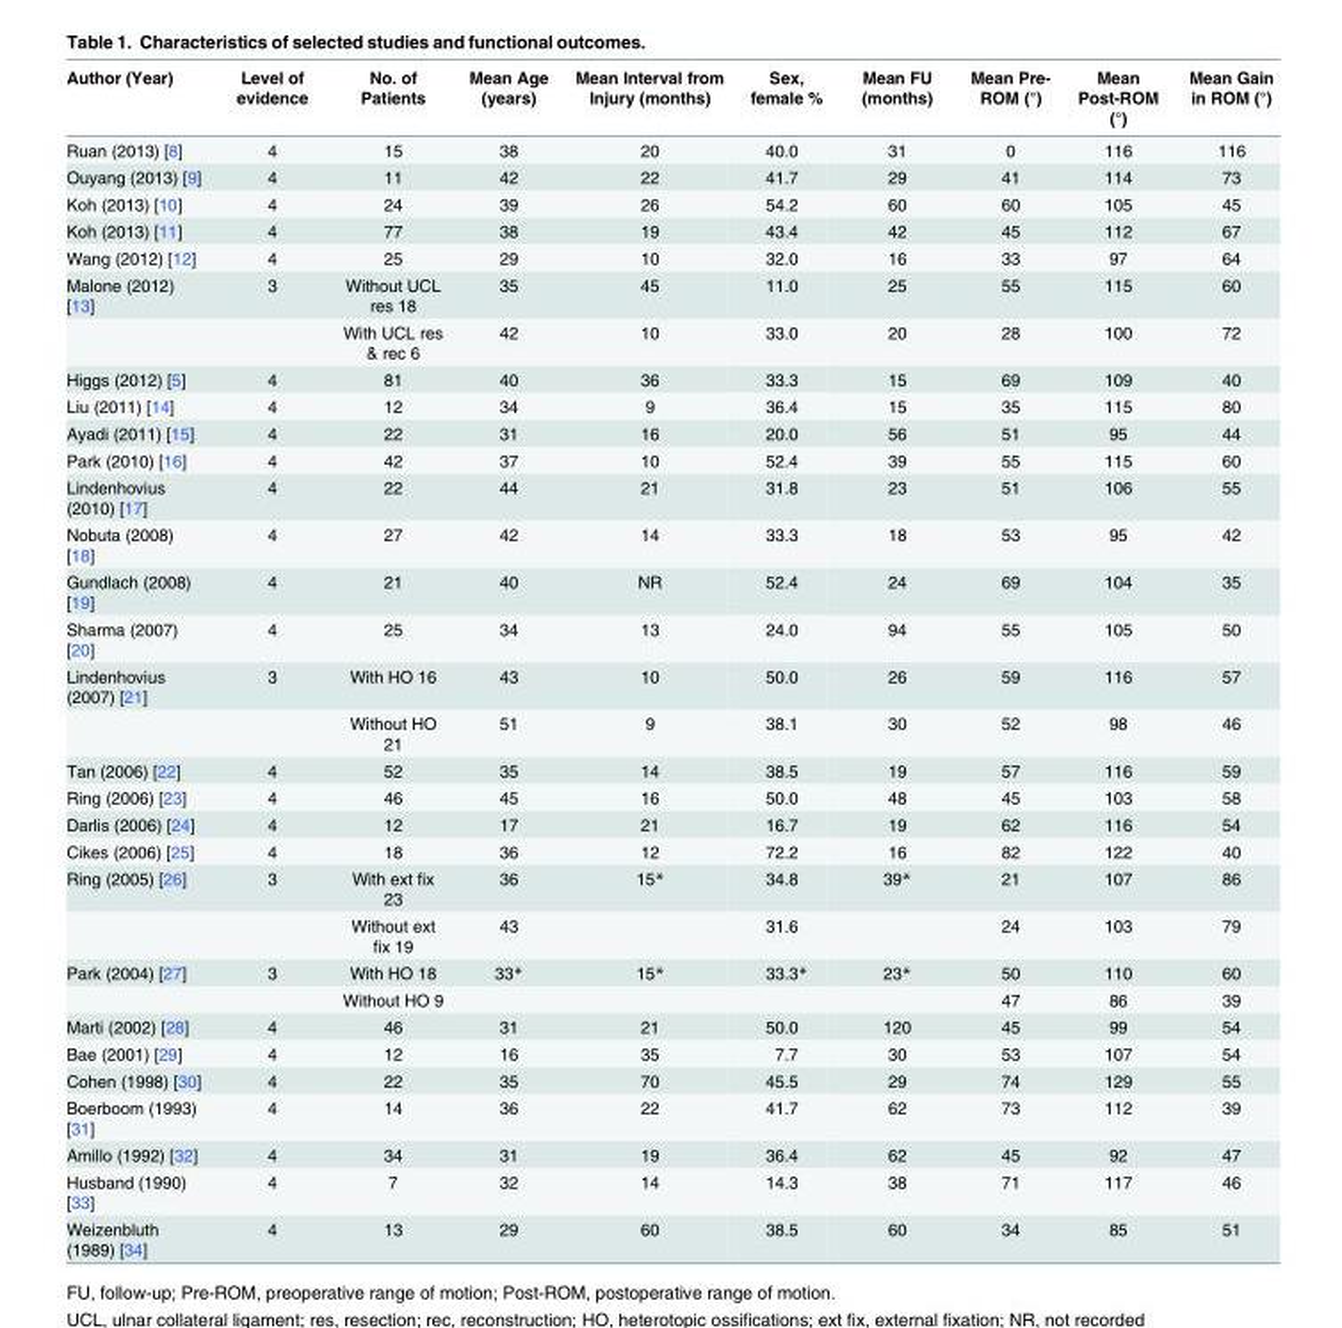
<table><thead><tr><td>Author (Year)</td><td>Level of evidence</td><td>No. of Patients</td><td>Mean Age (years)</td><td>Mean Interval from Injury (months)</td><td>Sex, female %</td><td>Mean FU (months)</td><td>Mean Pre- ROM (°)</td><td>Mean Post-ROM (°)</td><td>Mean Gain in ROM (°)</td></tr></thead><tbody><tr><td>Ruan (2013) [8]</td><td>4</td><td>15</td><td>38</td><td>20</td><td>40.0</td><td>31</td><td>0</td><td>116</td><td>116</td></tr><tr><td>Ouyang (2013) [9]</td><td>4</td><td>11</td><td>42</td><td>22</td><td>41.7</td><td>29</td><td>41</td><td>114</td><td>73</td></tr><tr><td>Koh (2013) [10]</td><td>4</td><td>24</td><td>39</td><td>26</td><td>54.2</td><td>60</td><td>60</td><td>105</td><td>45</td></tr><tr><td>Koh (2013) [11]</td><td>4</td><td>77</td><td>38</td><td>19</td><td>43.4</td><td>42</td><td>45</td><td>112</td><td>67</td></tr><tr><td>Wang (2012) [12]</td><td>4</td><td>25</td><td>29</td><td>10</td><td>32.0</td><td>16</td><td>33</td><td>97</td><td>64</td></tr><tr><td rowspan="2">Malone (2012) [13]</td><td>3</td><td>Without UCL res 18</td><td>35</td><td>45</td><td>11.0</td><td>25</td><td>55</td><td>115</td><td>60</td></tr><tr><td></td><td>With UCL res &amp; rec 6</td><td>42</td><td>10</td><td>33.0</td><td>20</td><td>28</td><td>100</td><td>72</td></tr><tr><td>Higgs (2012) [5]</td><td>4</td><td>81</td><td>40</td><td>36</td><td>33.3</td><td>15</td><td>69</td><td>109</td><td>40</td></tr><tr><td>Liu (2011) [14]</td><td>4</td><td>12</td><td>34</td><td>9</td><td>36.4</td><td>15</td><td>35</td><td>115</td><td>80</td></tr><tr><td>Ayadi (2011) [15]</td><td>4</td><td>22</td><td>31</td><td>16</td><td>20.0</td><td>56</td><td>51</td><td>95</td><td>44</td></tr><tr><td>Park (2010) [16]</td><td>4</td><td>42</td><td>37</td><td>10</td><td>52.4</td><td>39</td><td>55</td><td>115</td><td>60</td></tr><tr><td>Lindenhovius (2010) [17]</td><td>4</td><td>22</td><td>44</td><td>21</td><td>31.8</td><td>23</td><td>51</td><td>106</td><td>55</td></tr><tr><td>Nobuta (2008) [18]</td><td>4</td><td>27</td><td>42</td><td>14</td><td>33.3</td><td>18</td><td>53</td><td>95</td><td>42</td></tr><tr><td>Gundlach (2008) [19]</td><td>4</td><td>21</td><td>40</td><td>NR</td><td>52.4</td><td>24</td><td>69</td><td>104</td><td>35</td></tr><tr><td>Sharma (2007) [20]</td><td>4</td><td>25</td><td>34</td><td>13</td><td>24.0</td><td>94</td><td>55</td><td>105</td><td>50</td></tr><tr><td rowspan="2">Lindenhovius (2007) [21]</td><td>3</td><td>With HO 16</td><td>43</td><td>10</td><td>50.0</td><td>26</td><td>59</td><td>116</td><td>57</td></tr><tr><td></td><td>Without HO 21</td><td>51</td><td>9</td><td>38.1</td><td>30</td><td>52</td><td>98</td><td>46</td></tr><tr><td>Tan (2006) [22]</td><td>4</td><td>52</td><td>35</td><td>14</td><td>38.5</td><td>19</td><td>57</td><td>116</td><td>59</td></tr><tr><td>Ring (2006) [23]</td><td>4</td><td>46</td><td>45</td><td>16</td><td>50.0</td><td>48</td><td>45</td><td>103</td><td>58</td></tr><tr><td>Darlis (2006) [24]</td><td>4</td><td>12</td><td>17</td><td>21</td><td>16.7</td><td>19</td><td>62</td><td>116</td><td>54</td></tr><tr><td>Cikes (2006) [25]</td><td>4</td><td>18</td><td>36</td><td>12</td><td>72.2</td><td>16</td><td>82</td><td>122</td><td>40</td></tr><tr><td rowspan="2">Ring (2005) [26]</td><td>3</td><td>With ext fix 23</td><td>36</td><td>15*</td><td>34.8</td><td>39*</td><td>21</td><td>107</td><td>86</td></tr><tr><td></td><td>Without ext fix 19</td><td>43</td><td></td><td>31.6</td><td></td><td>24</td><td>103</td><td>79</td></tr><tr><td rowspan="2">Park (2004) [27]</td><td>3</td><td>With HO 18</td><td>33*</td><td>15*</td><td>33.3*</td><td>23*</td><td>50</td><td>110</td><td>60</td></tr><tr><td></td><td>Without HO 9</td><td></td><td></td><td></td><td></td><td>47</td><td>86</td><td>39</td></tr><tr><td>Marti (2002) [28]</td><td>4</td><td>46</td><td>31</td><td>21</td><td>50.0</td><td>120</td><td>45</td><td>99</td><td>54</td></tr><tr><td>Bae (2001) [29]</td><td>4</td><td>12</td><td>16</td><td>35</td><td>7.7</td><td>30</td><td>53</td><td>107</td><td>54</td></tr><tr><td>Cohen (1998) [30]</td><td>4</td><td>22</td><td>35</td><td>70</td><td>45.5</td><td>29</td><td>74</td><td>129</td><td>55</td></tr><tr><td>Boerboom (1993) [31]</td><td>4</td><td>14</td><td>36</td><td>22</td><td>41.7</td><td>62</td><td>73</td><td>112</td><td>39</td></tr><tr><td>Amillo (1992) [32]</td><td>4</td><td>34</td><td>31</td><td>19</td><td>36.4</td><td>62</td><td>45</td><td>92</td><td>47</td></tr><tr><td>Husband (1990) [33]</td><td>4</td><td>7</td><td>32</td><td>14</td><td>14.3</td><td>38</td><td>71</td><td>117</td><td>46</td></tr><tr><td>Weizenbluth (1989) [34]</td><td>4</td><td>13</td><td>29</td><td>60</td><td>38.5</td><td>60</td><td>34</td><td>85</td><td>51</td></tr></tbody></table>